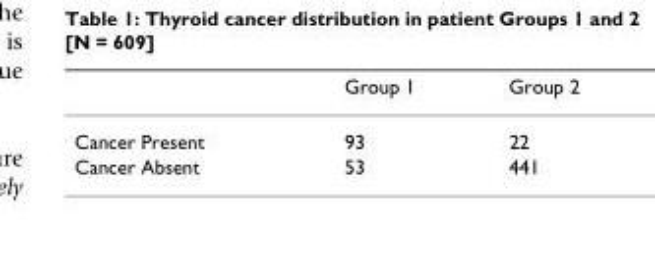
<table><thead><tr><td></td><td>Group 1</td><td>Group 2</td></tr></thead><tbody><tr><td>Cancer Present</td><td>93</td><td>22</td></tr><tr><td>Cancer Absent</td><td>53</td><td>441</td></tr></tbody></table>